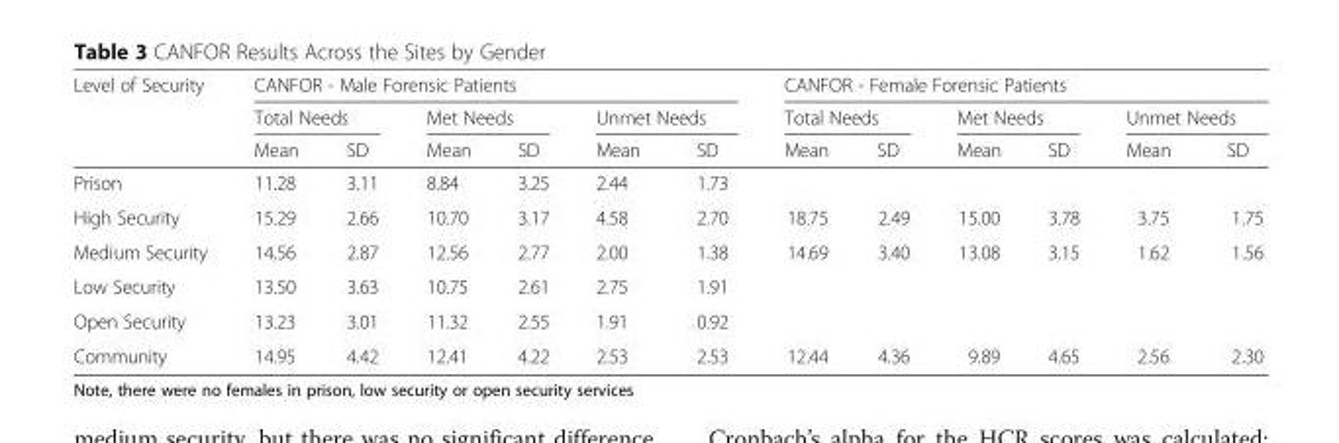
<table><thead><tr><td rowspan="3">Level of Security</td><td colspan="6">CANFOR - Male Forensic Patients</td><td colspan="6">CANFOR - Female Forensic Patients</td></tr><tr><td colspan="2">Total Needs</td><td colspan="2">Met Needs</td><td colspan="2">Unmet Needs</td><td colspan="2">Total Needs</td><td colspan="2">Met Needs</td><td colspan="2">Unmet Needs</td></tr><tr><td>Mean</td><td>SD</td><td>Mean</td><td>SD</td><td>Mean</td><td>SD</td><td>Mean</td><td>SD</td><td>Mean</td><td>SD</td><td>Mean</td><td>SD</td></tr></thead><tbody><tr><td>Prison</td><td>11.28</td><td>3.11</td><td>8.84</td><td>3.25</td><td>2.44</td><td>1.73</td><td></td><td></td><td></td><td></td><td></td><td></td></tr><tr><td>High Security</td><td>15.29</td><td>2.66</td><td>10.70</td><td>3.17</td><td>4.58</td><td>2.70</td><td>18.75</td><td>2.49</td><td>15.00</td><td>3.78</td><td>3.75</td><td>1.75</td></tr><tr><td>Medium Security</td><td>14.56</td><td>2.87</td><td>12.56</td><td>2.77</td><td>2.00</td><td>1.38</td><td>14.69</td><td>3.40</td><td>13.08</td><td>3.15</td><td>1.62</td><td>1.56</td></tr><tr><td>Low Security</td><td>13.50</td><td>3.63</td><td>10.75</td><td>2.61</td><td>2.75</td><td>1.91</td><td></td><td></td><td></td><td></td><td></td><td></td></tr><tr><td>Open Security</td><td>13.23</td><td>3.01</td><td>11.32</td><td>2.55</td><td>1.91</td><td>0.92</td><td></td><td></td><td></td><td></td><td></td><td></td></tr><tr><td>Community</td><td>14.95</td><td>4.42</td><td>12.41</td><td>4.22</td><td>2.53</td><td>2.53</td><td>12.44</td><td>4.36</td><td>9.89</td><td>4.65</td><td>2.56</td><td>2.30</td></tr></tbody></table>